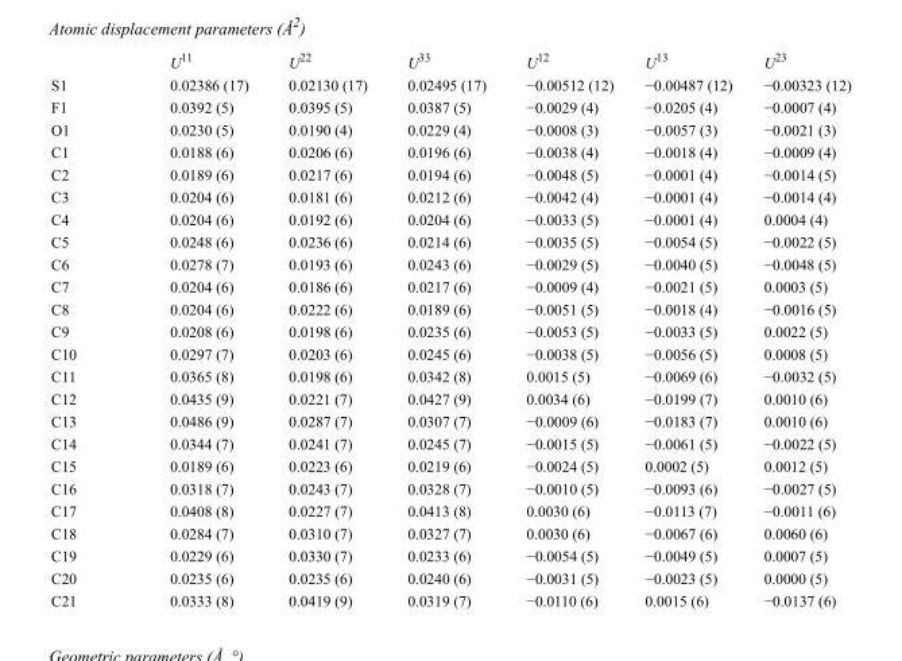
<table><thead><tr><td></td><td>U<sup>11</sup></td><td>U<sup>22</sup></td><td>U<sup>33</sup></td><td>U<sup>12</sup></td><td>U<sup>13</sup></td><td>U<sup>23</sup></td></tr></thead><tbody><tr><td>S1</td><td>0.02386 (17)</td><td>0.02130 (17)</td><td>0.02495 (17)</td><td>−0.00512 (12)</td><td>−0.00487 (12)</td><td>−0.00323 (12)</td></tr><tr><td>F1</td><td>0.0392 (5)</td><td>0.0395 (5)</td><td>0.0387 (5)</td><td>−0.0029 (4)</td><td>−0.0205 (4)</td><td>−0.0007 (4)</td></tr><tr><td>O1</td><td>0.0230 (5)</td><td>0.0190 (4)</td><td>0.0229 (4)</td><td>−0.0008 (3)</td><td>−0.0057 (3)</td><td>−0.0021 (3)</td></tr><tr><td>C1</td><td>0.0188 (6)</td><td>0.0206 (6)</td><td>0.0196 (6)</td><td>−0.0038 (4)</td><td>−0.0018 (4)</td><td>−0.0009 (4)</td></tr><tr><td>C2</td><td>0.0189 (6)</td><td>0.0217 (6)</td><td>0.0194 (6)</td><td>−0.0048 (5)</td><td>−0.0001 (4)</td><td>−0.0014 (5)</td></tr><tr><td>C3</td><td>0.0204 (6)</td><td>0.0181 (6)</td><td>0.0212 (6)</td><td>−0.0042 (4)</td><td>−0.0001 (4)</td><td>−0.0014 (4)</td></tr><tr><td>C4</td><td>0.0204 (6)</td><td>0.0192 (6)</td><td>0.0204 (6)</td><td>−0.0033 (5)</td><td>−0.0001 (4)</td><td>0.0004 (4)</td></tr><tr><td>C5</td><td>0.0248 (6)</td><td>0.0236 (6)</td><td>0.0214 (6)</td><td>−0.0035 (5)</td><td>−0.0054 (5)</td><td>−0.0022 (5)</td></tr><tr><td>C6</td><td>0.0278 (7)</td><td>0.0193 (6)</td><td>0.0243 (6)</td><td>−0.0029 (5)</td><td>−0.0040 (5)</td><td>−0.0048 (5)</td></tr><tr><td>C7</td><td>0.0204 (6)</td><td>0.0186 (6)</td><td>0.0217 (6)</td><td>−0.0009 (4)</td><td>−0.0021 (5)</td><td>0.0003 (5)</td></tr><tr><td>C8</td><td>0.0204 (6)</td><td>0.0222 (6)</td><td>0.0189 (6)</td><td>−0.0051 (5)</td><td>−0.0018 (4)</td><td>−0.0016 (5)</td></tr><tr><td>C9</td><td>0.0208 (6)</td><td>0.0198 (6)</td><td>0.0235 (6)</td><td>−0.0053 (5)</td><td>−0.0033 (5)</td><td>0.0022 (5)</td></tr><tr><td>C10</td><td>0.0297 (7)</td><td>0.0203 (6)</td><td>0.0245 (6)</td><td>−0.0038 (5)</td><td>−0.0056 (5)</td><td>0.0008 (5)</td></tr><tr><td>C11</td><td>0.0365 (8)</td><td>0.0198 (6)</td><td>0.0342 (8)</td><td>0.0015 (5)</td><td>−0.0069 (6)</td><td>−0.0032 (5)</td></tr><tr><td>C12</td><td>0.0435 (9)</td><td>0.0221 (7)</td><td>0.0427 (9)</td><td>0.0034 (6)</td><td>−0.0199 (7)</td><td>0.0010 (6)</td></tr><tr><td>C13</td><td>0.0486 (9)</td><td>0.0287 (7)</td><td>0.0307 (7)</td><td>−0.0009 (6)</td><td>−0.0183 (7)</td><td>0.0010 (6)</td></tr><tr><td>C14</td><td>0.0344 (7)</td><td>0.0241 (7)</td><td>0.0245 (7)</td><td>−0.0015 (5)</td><td>−0.0061 (5)</td><td>−0.0022 (5)</td></tr><tr><td>C15</td><td>0.0189 (6)</td><td>0.0223 (6)</td><td>0.0219 (6)</td><td>−0.0024 (5)</td><td>0.0002 (5)</td><td>0.0012 (5)</td></tr><tr><td>C16</td><td>0.0318 (7)</td><td>0.0243 (7)</td><td>0.0328 (7)</td><td>−0.0010 (5)</td><td>−0.0093 (6)</td><td>−0.0027 (5)</td></tr><tr><td>C17</td><td>0.0408 (8)</td><td>0.0227 (7)</td><td>0.0413 (8)</td><td>0.0030 (6)</td><td>−0.0113 (7)</td><td>−0.0011 (6)</td></tr><tr><td>C18</td><td>0.0284 (7)</td><td>0.0310 (7)</td><td>0.0327 (7)</td><td>0.0030 (6)</td><td>−0.0067 (6)</td><td>0.0060 (6)</td></tr><tr><td>C19</td><td>0.0229 (6)</td><td>0.0330 (7)</td><td>0.0233 (6)</td><td>−0.0054 (5)</td><td>−0.0049 (5)</td><td>0.0007 (5)</td></tr><tr><td>C20</td><td>0.0235 (6)</td><td>0.0235 (6)</td><td>0.0240 (6)</td><td>−0.0031 (5)</td><td>−0.0023 (5)</td><td>0.0000 (5)</td></tr><tr><td>C21</td><td>0.0333 (8)</td><td>0.0419 (9)</td><td>0.0319 (7)</td><td>−0.0110 (6)</td><td>0.0015 (6)</td><td>−0.0137 (6)</td></tr></tbody></table>